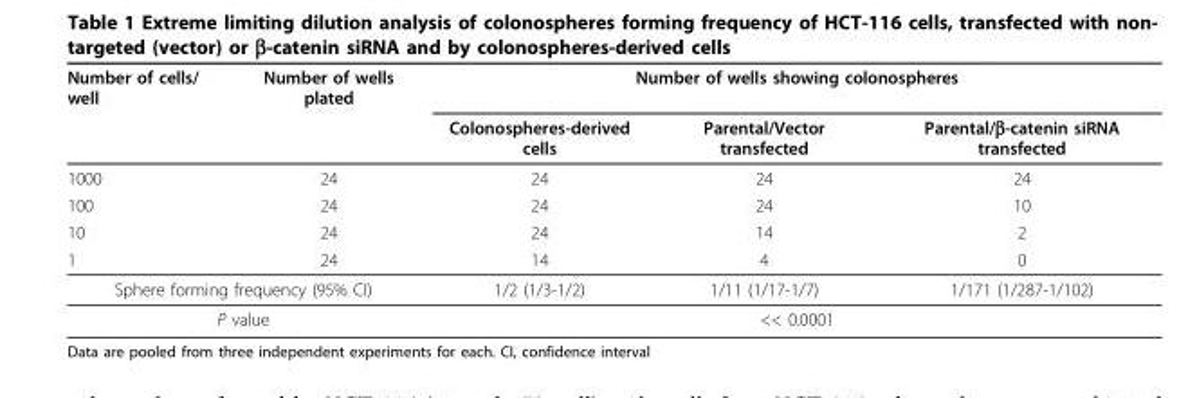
<table><thead><tr><td rowspan="2">Number of cells/ well</td><td rowspan="2">Number of wells plated</td><td colspan="3">Number of wells showing colonospheres</td></tr><tr><td>Colonospheres-derived cells</td><td>Parental/Vector transfected</td><td>Parental/β-catenin siRNA transfected</td></tr></thead><tbody><tr><td>1000</td><td>24</td><td>24</td><td>24</td><td>24</td></tr><tr><td>100</td><td>24</td><td>24</td><td>24</td><td>10</td></tr><tr><td>10</td><td>24</td><td>24</td><td>14</td><td>2</td></tr><tr><td>1</td><td>24</td><td>14</td><td>4</td><td>0</td></tr><tr><td colspan="2">Sphere forming frequency (95% CI)</td><td>1/2 (1/3-1/2)</td><td>1/11 (1/17-1/7)</td><td>1/171 (1/287-1/102)</td></tr><tr><td colspan="2">P value</td><td colspan="3">&lt;&lt; 0.0001</td></tr></tbody></table>